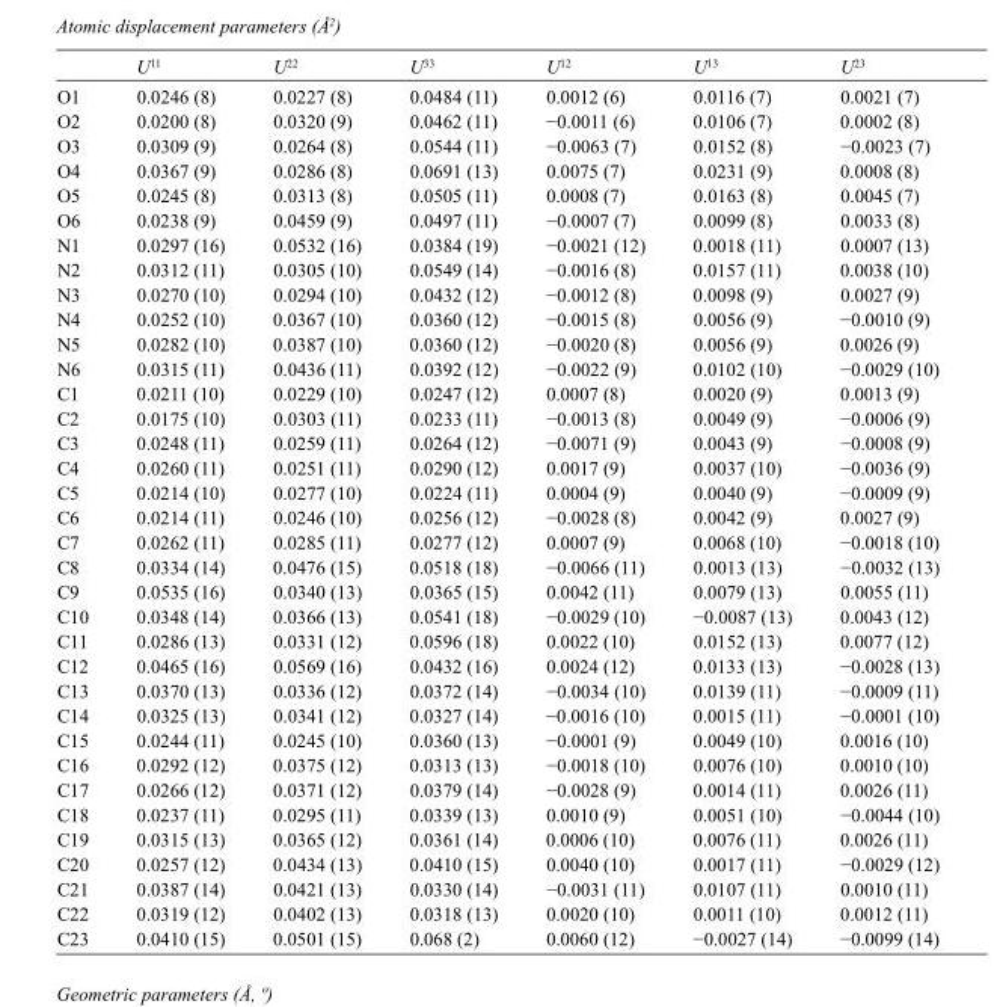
<table><thead><tr><td></td><td>U<sup>11</sup></td><td>U<sup>22</sup></td><td>U<sup>33</sup></td><td>U<sup>12</sup></td><td>U<sup>13</sup></td><td>U<sup>23</sup></td></tr></thead><tbody><tr><td>O1</td><td>0.0246 (8)</td><td>0.0227 (8)</td><td>0.0484 (11)</td><td>0.0012 (6)</td><td>0.0116 (7)</td><td>0.0021 (7)</td></tr><tr><td>O2</td><td>0.0200 (8)</td><td>0.0320 (9)</td><td>0.0462 (11)</td><td>−0.0011 (6)</td><td>0.0106 (7)</td><td>0.0002 (8)</td></tr><tr><td>O3</td><td>0.0309 (9)</td><td>0.0264 (8)</td><td>0.0544 (11)</td><td>−0.0063 (7)</td><td>0.0152 (8)</td><td>−0.0023 (7)</td></tr><tr><td>O4</td><td>0.0367 (9)</td><td>0.0286 (8)</td><td>0.0691 (13)</td><td>0.0075 (7)</td><td>0.0231 (9)</td><td>0.0008 (8)</td></tr><tr><td>O5</td><td>0.0245 (8)</td><td>0.0313 (8)</td><td>0.0505 (11)</td><td>0.0008 (7)</td><td>0.0163 (8)</td><td>0.0045 (7)</td></tr><tr><td>O6</td><td>0.0238 (9)</td><td>0.0459 (9)</td><td>0.0497 (11)</td><td>−0.0007 (7)</td><td>0.0099 (8)</td><td>0.0033 (8)</td></tr><tr><td>N1</td><td>0.0297 (16)</td><td>0.0532 (16)</td><td>0.0384 (19)</td><td>−0.0021 (12)</td><td>0.0018 (11)</td><td>0.0007 (13)</td></tr><tr><td>N2</td><td>0.0312 (11)</td><td>0.0305 (10)</td><td>0.0549 (14)</td><td>−0.0016 (8)</td><td>0.0157 (11)</td><td>0.0038 (10)</td></tr><tr><td>N3</td><td>0.0270 (10)</td><td>0.0294 (10)</td><td>0.0432 (12)</td><td>−0.0012 (8)</td><td>0.0098 (9)</td><td>0.0027 (9)</td></tr><tr><td>N4</td><td>0.0252 (10)</td><td>0.0367 (10)</td><td>0.0360 (12)</td><td>−0.0015 (8)</td><td>0.0056 (9)</td><td>−0.0010 (9)</td></tr><tr><td>N5</td><td>0.0282 (10)</td><td>0.0387 (10)</td><td>0.0360 (12)</td><td>−0.0020 (8)</td><td>0.0056 (9)</td><td>0.0026 (9)</td></tr><tr><td>N6</td><td>0.0315 (11)</td><td>0.0436 (11)</td><td>0.0392 (12)</td><td>−0.0022 (9)</td><td>0.0102 (10)</td><td>−0.0029 (10)</td></tr><tr><td>C1</td><td>0.0211 (10)</td><td>0.0229 (10)</td><td>0.0247 (12)</td><td>0.0007 (8)</td><td>0.0020 (9)</td><td>0.0013 (9)</td></tr><tr><td>C2</td><td>0.0175 (10)</td><td>0.0303 (11)</td><td>0.0233 (11)</td><td>−0.0013 (8)</td><td>0.0049 (9)</td><td>−0.0006 (9)</td></tr><tr><td>C3</td><td>0.0248 (11)</td><td>0.0259 (11)</td><td>0.0264 (12)</td><td>−0.0071 (9)</td><td>0.0043 (9)</td><td>−0.0008 (9)</td></tr><tr><td>C4</td><td>0.0260 (11)</td><td>0.0251 (11)</td><td>0.0290 (12)</td><td>0.0017 (9)</td><td>0.0037 (10)</td><td>−0.0036 (9)</td></tr><tr><td>C5</td><td>0.0214 (10)</td><td>0.0277 (10)</td><td>0.0224 (11)</td><td>0.0004 (9)</td><td>0.0040 (9)</td><td>−0.0009 (9)</td></tr><tr><td>C6</td><td>0.0214 (11)</td><td>0.0246 (10)</td><td>0.0256 (12)</td><td>−0.0028 (8)</td><td>0.0042 (9)</td><td>0.0027 (9)</td></tr><tr><td>C7</td><td>0.0262 (11)</td><td>0.0285 (11)</td><td>0.0277 (12)</td><td>0.0007 (9)</td><td>0.0068 (10)</td><td>−0.0018 (10)</td></tr><tr><td>C8</td><td>0.0334 (14)</td><td>0.0476 (15)</td><td>0.0518 (18)</td><td>−0.0066 (11)</td><td>0.0013 (13)</td><td>−0.0032 (13)</td></tr><tr><td>C9</td><td>0.0535 (16)</td><td>0.0340 (13)</td><td>0.0365 (15)</td><td>0.0042 (11)</td><td>0.0079 (13)</td><td>0.0055 (11)</td></tr><tr><td>C10</td><td>0.0348 (14)</td><td>0.0366 (13)</td><td>0.0541 (18)</td><td>−0.0029 (10)</td><td>−0.0087 (13)</td><td>0.0043 (12)</td></tr><tr><td>C11</td><td>0.0286 (13)</td><td>0.0331 (12)</td><td>0.0596 (18)</td><td>0.0022 (10)</td><td>0.0152 (13)</td><td>0.0077 (12)</td></tr><tr><td>C12</td><td>0.0465 (16)</td><td>0.0569 (16)</td><td>0.0432 (16)</td><td>0.0024 (12)</td><td>0.0133 (13)</td><td>−0.0028 (13)</td></tr><tr><td>C13</td><td>0.0370 (13)</td><td>0.0336 (12)</td><td>0.0372 (14)</td><td>−0.0034 (10)</td><td>0.0139 (11)</td><td>−0.0009 (11)</td></tr><tr><td>C14</td><td>0.0325 (13)</td><td>0.0341 (12)</td><td>0.0327 (14)</td><td>−0.0016 (10)</td><td>0.0015 (11)</td><td>−0.0001 (10)</td></tr><tr><td>C15</td><td>0.0244 (11)</td><td>0.0245 (10)</td><td>0.0360 (13)</td><td>−0.0001 (9)</td><td>0.0049 (10)</td><td>0.0016 (10)</td></tr><tr><td>C16</td><td>0.0292 (12)</td><td>0.0375 (12)</td><td>0.0313 (13)</td><td>−0.0018 (10)</td><td>0.0076 (10)</td><td>0.0010 (10)</td></tr><tr><td>C17</td><td>0.0266 (12)</td><td>0.0371 (12)</td><td>0.0379 (14)</td><td>−0.0028 (9)</td><td>0.0014 (11)</td><td>0.0026 (11)</td></tr><tr><td>C18</td><td>0.0237 (11)</td><td>0.0295 (11)</td><td>0.0339 (13)</td><td>0.0010 (9)</td><td>0.0051 (10)</td><td>−0.0044 (10)</td></tr><tr><td>C19</td><td>0.0315 (13)</td><td>0.0365 (12)</td><td>0.0361 (14)</td><td>0.0006 (10)</td><td>0.0076 (11)</td><td>0.0026 (11)</td></tr><tr><td>C20</td><td>0.0257 (12)</td><td>0.0434 (13)</td><td>0.0410 (15)</td><td>0.0040 (10)</td><td>0.0017 (11)</td><td>−0.0029 (12)</td></tr><tr><td>C21</td><td>0.0387 (14)</td><td>0.0421 (13)</td><td>0.0330 (14)</td><td>−0.0031 (11)</td><td>0.0107 (11)</td><td>0.0010 (11)</td></tr><tr><td>C22</td><td>0.0319 (12)</td><td>0.0402 (13)</td><td>0.0318 (13)</td><td>0.0020 (10)</td><td>0.0011 (10)</td><td>0.0012 (11)</td></tr><tr><td>C23</td><td>0.0410 (15)</td><td>0.0501 (15)</td><td>0.068 (2)</td><td>0.0060 (12)</td><td>−0.0027 (14)</td><td>−0.0099 (14)</td></tr></tbody></table>